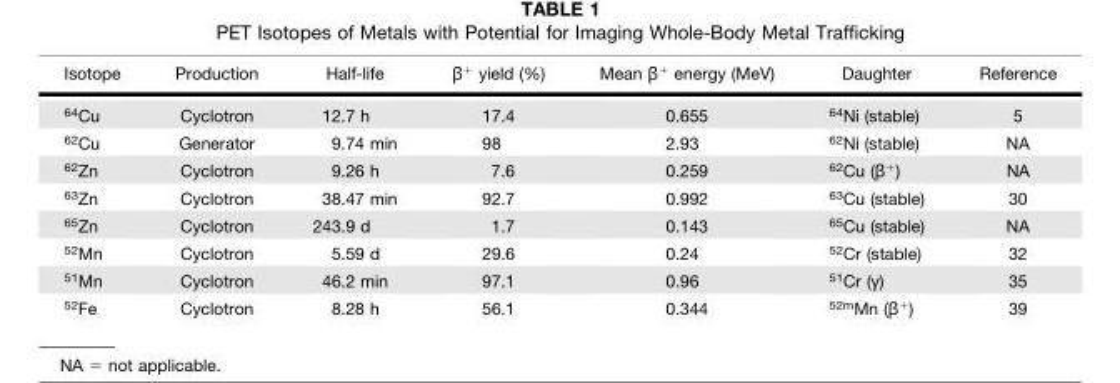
<table><thead><tr><td>Isotope</td><td>Production</td><td>Half-life</td><td>β<sup>+</sup> yield (%)</td><td>Mean β<sup>+</sup> energy (MeV)</td><td>Daughter</td><td>Reference</td></tr></thead><tbody><tr><td><sup>64</sup>Cu</td><td>Cyclotron</td><td>12.7 h</td><td>17.4</td><td>0.655</td><td><sup>64</sup>Ni (stable)</td><td>5</td></tr><tr><td><sup>62</sup>Cu</td><td>Generator</td><td>9.74 min</td><td>98</td><td>2.93</td><td><sup>62</sup>Ni (stable)</td><td>NA</td></tr><tr><td><sup>62</sup>Zn</td><td>Cyclotron</td><td>9.26 h</td><td>7.6</td><td>0.259</td><td><sup>62</sup>Cu (β<sup>+</sup>)</td><td>NA</td></tr><tr><td><sup>63</sup>Zn</td><td>Cyclotron</td><td>38.47 min</td><td>92.7</td><td>0.992</td><td><sup>63</sup>Cu (stable)</td><td>30</td></tr><tr><td><sup>65</sup>Zn</td><td>Cyclotron</td><td>243.9 d</td><td>1.7</td><td>0.143</td><td><sup>65</sup>Cu (stable)</td><td>NA</td></tr><tr><td><sup>52</sup>Mn</td><td>Cyclotron</td><td>5.59 d</td><td>29.6</td><td>0.24</td><td><sup>52</sup>Cr (stable)</td><td>32</td></tr><tr><td><sup>51</sup>Mn</td><td>Cyclotron</td><td>46.2 min</td><td>97.1</td><td>0.96</td><td><sup>51</sup>Cr (γ)</td><td>35</td></tr><tr><td><sup>52</sup>Fe</td><td>Cyclotron</td><td>8.28 h</td><td>56.1</td><td>0.344</td><td><sup>52m</sup>Mn (β<sup>+</sup>)</td><td>39</td></tr></tbody></table>